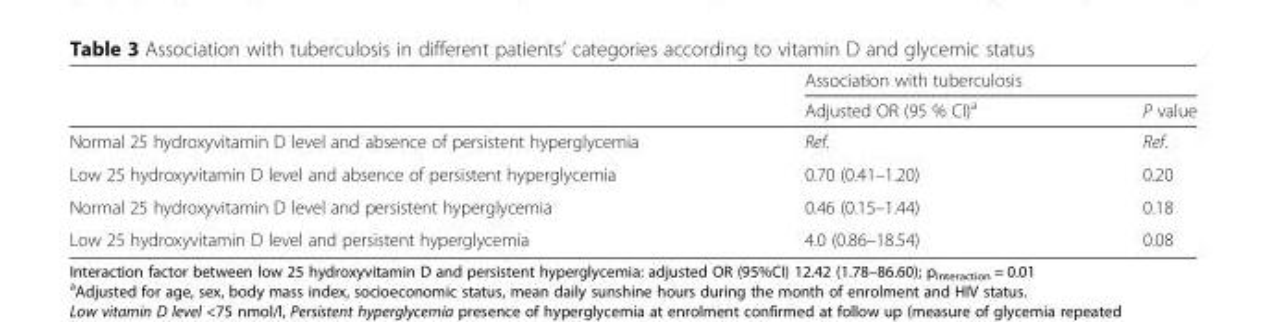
<table><thead><tr><td rowspan="2"></td><td colspan="2">Association with tuberculosis</td></tr><tr><td>Adjusted OR (95 % CI)<sup>a</sup></td><td>P value</td></tr></thead><tbody><tr><td>Normal 25 hydroxyvitamin D level and absence of persistent hyperglycemia</td><td>Ref.</td><td>Ref.</td></tr><tr><td>Low 25 hydroxyvitamin D level and absence of persistent hyperglycemia</td><td>0.70 (0.41–1.20)</td><td>0.20</td></tr><tr><td>Normal 25 hydroxyvitamin D level and persistent hyperglycemia</td><td>0.46 (0.15–1.44)</td><td>0.18</td></tr><tr><td>Low 25 hydroxyvitamin D level and persistent hyperglycemia</td><td>4.0 (0.86–18.54)</td><td>0.08</td></tr></tbody></table>